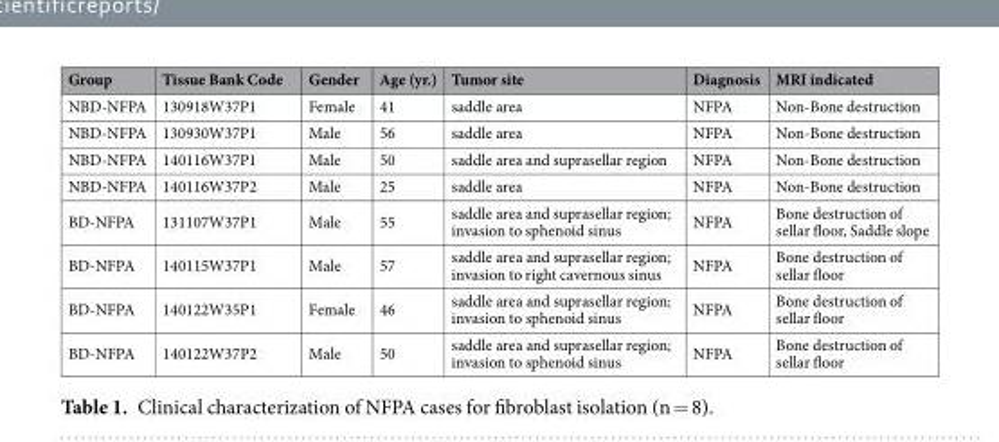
<table><thead><tr><td>Group</td><td>Tissue Bank Code</td><td>Gender</td><td>Age (yr.)</td><td>Tumor site</td><td>Diagnosis</td><td>MRI indicated</td></tr></thead><tbody><tr><td>NBD-NFPA</td><td>130918W37P1</td><td>Female</td><td>41</td><td>saddle area</td><td>NFPA</td><td>Non-Bone destruction</td></tr><tr><td>NBD-NFPA</td><td>130930W37P1</td><td>Male</td><td>56</td><td>saddle area</td><td>NFPA</td><td>Non-Bone destruction</td></tr><tr><td>NBD-NFPA</td><td>140116W37P1</td><td>Male</td><td>50</td><td>saddle area and suprasellar region</td><td>NFPA</td><td>Non-Bone destruction</td></tr><tr><td>NBD-NFPA</td><td>140116W37P2</td><td>Male</td><td>25</td><td>saddle area</td><td>NFPA</td><td>Non-Bone destruction</td></tr><tr><td>BD-NFPA</td><td>131107W37P1</td><td>Male</td><td>55</td><td>saddle area and suprasellar region; invasion to sphenoid sinus</td><td>NFPA</td><td>Bone destruction of sellar floor, Saddle slope</td></tr><tr><td>BD-NFPA</td><td>140115W37P1</td><td>Male</td><td>57</td><td>saddle area and suprasellar region; invasion to right cavernous sinus</td><td>NFPA</td><td>Bone destruction of sellar floor</td></tr><tr><td>BD-NFPA</td><td>140122W35P1</td><td>Female</td><td>46</td><td>saddle area and suprasellar region; invasion to sphenoid sinus</td><td>NFPA</td><td>Bone destruction of sellar floor</td></tr><tr><td>BD-NFPA</td><td>140122W37P2</td><td>Male</td><td>50</td><td>saddle area and suprasellar region; invasion to sphenoid sinus</td><td>NFPA</td><td>Bone destruction of sellar floor</td></tr></tbody></table>